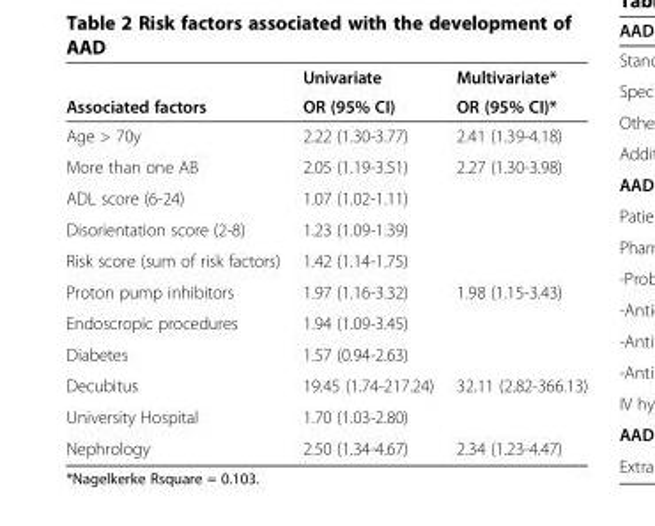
<table><thead><tr><td rowspan="2">Associated factors</td><td rowspan="2">Univariate OR (95% CI)</td><td rowspan="2">Multivariate* OR (95% CI)*</td></tr><tr></tr></thead><tbody><tr><td>Age &gt; 70y</td><td>2.22 (1.30-3.77)</td><td>2.41 (1.39-4.18)</td></tr><tr><td>More than one AB</td><td>2.05 (1.19-3.51)</td><td>2.27 (1.30-3.98)</td></tr><tr><td>ADL score (6-24)</td><td>1.07 (1.02-1.11)</td><td></td></tr><tr><td>Disorientation score (2-8)</td><td>1.23 (1.09-1.39)</td><td></td></tr><tr><td>Risk score (sum of risk factors)</td><td>1.42 (1.14-1.75)</td><td></td></tr><tr><td>Proton pump inhibitors</td><td>1.97 (1.16-3.32)</td><td>1.98 (1.15-3.43)</td></tr><tr><td>Endoscropic procedures</td><td>1.94 (1.09-3.45)</td><td></td></tr><tr><td>Diabetes</td><td>1.57 (0.94-2.63)</td><td></td></tr><tr><td>Decubitus</td><td>19.45 (1.74-217.24)</td><td>32.11 (2.82-366.13)</td></tr><tr><td>University Hospital</td><td>1.70 (1.03-2.80)</td><td></td></tr><tr><td>Nephrology</td><td>2.50 (1.34-4.67)</td><td>2.34 (1.23-4.47)</td></tr></tbody></table>